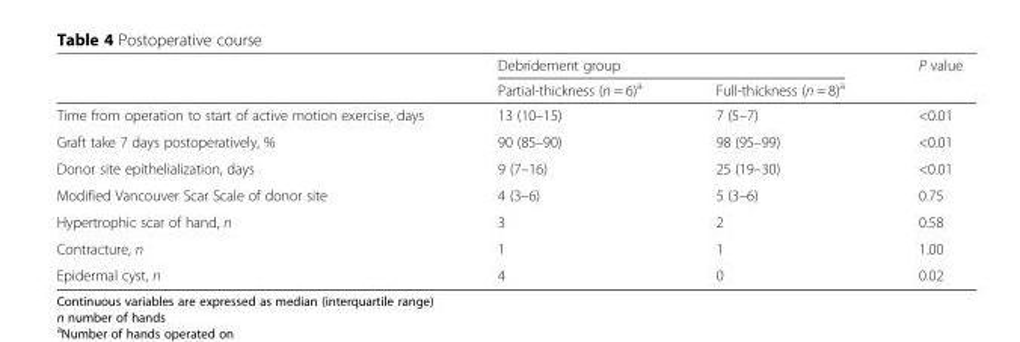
<table><thead><tr><td rowspan="2"></td><td colspan="2">Debridement group</td><td rowspan="2">P value</td></tr><tr><td>Partial-thickness (n = 6)<sup>a</sup></td><td>Full-thickness (n = 8)<sup>a</sup></td></tr></thead><tbody><tr><td>Time from operation to start of active motion exercise, days</td><td>13 (10–15)</td><td>7 (5–7)</td><td>&lt;0.01</td></tr><tr><td>Graft take 7 days postoperatively, %</td><td>90 (85–90)</td><td>98 (95–99)</td><td>&lt;0.01</td></tr><tr><td>Donor site epithelialization, days</td><td>9 (7–16)</td><td>25 (19–30)</td><td>&lt;0.01</td></tr><tr><td>Modified Vancouver Scar Scale of donor site</td><td>4 (3–6)</td><td>5 (3–6)</td><td>0.75</td></tr><tr><td>Hypertrophic scar of hand, n</td><td>3</td><td>2</td><td>0.58</td></tr><tr><td>Contracture, n</td><td>1</td><td>1</td><td>1.00</td></tr><tr><td>Epidermal cyst, n</td><td>4</td><td>0</td><td>0.02</td></tr></tbody></table>